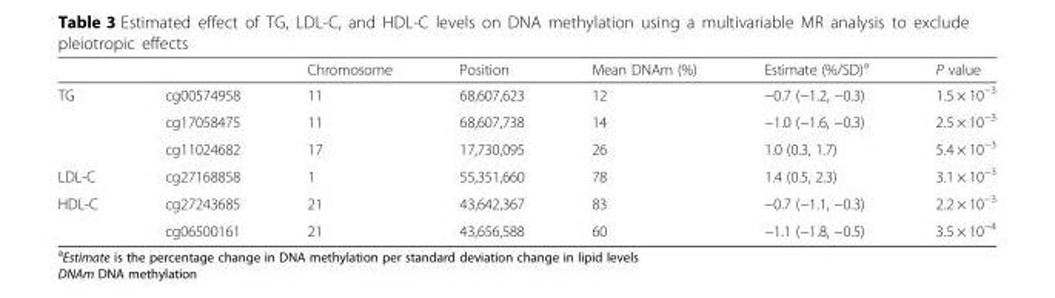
<table><thead><tr><td></td><td></td><td>Chromosome</td><td>Position</td><td>Mean DNAm (%)</td><td>Estimate (%/SD)<sup>a</sup></td><td>P value</td></tr></thead><tbody><tr><td rowspan="3">TG</td><td>cg00574958</td><td>11</td><td>68,607,623</td><td>12</td><td>−0.7 (−1.2, −0.3)</td><td>1.5 × 10<sup>−3</sup></td></tr><tr><td>cg17058475</td><td>11</td><td>68,607,738</td><td>14</td><td>−1.0 (−1.6, −0.3)</td><td>2.5 × 10<sup>−3</sup></td></tr><tr><td>cg11024682</td><td>17</td><td>17,730,095</td><td>26</td><td>1.0 (0.3, 1.7)</td><td>5.4 × 10<sup>−3</sup></td></tr><tr><td>LDL-C</td><td>cg27168858</td><td>1</td><td>55,351,660</td><td>78</td><td>1.4 (0.5, 2.3)</td><td>3.1 × 10<sup>−3</sup></td></tr><tr><td rowspan="2">HDL-C</td><td>cg27243685</td><td>21</td><td>43,642,367</td><td>83</td><td>−0.7 (−1.1, −0.3)</td><td>2.2 × 10<sup>−3</sup></td></tr><tr><td>cg06500161</td><td>21</td><td>43,656,588</td><td>60</td><td>−1.1 (−1.8, −0.5)</td><td>3.5 × 10<sup>−4</sup></td></tr></tbody></table>